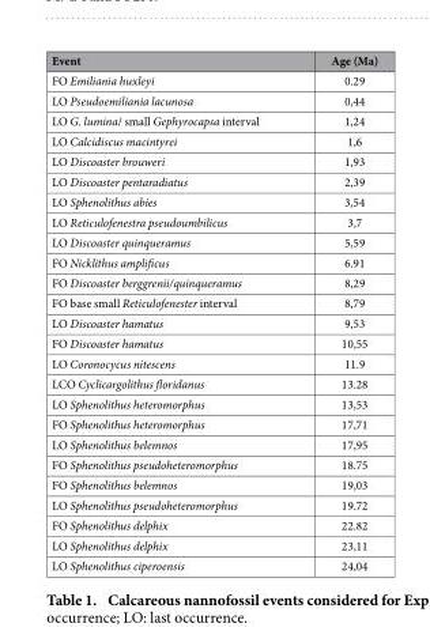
<table><thead><tr><td>Event</td><td>Age (Ma)</td></tr></thead><tbody><tr><td>FO Emiliania huxleyi</td><td>0.29</td></tr><tr><td>LO Pseudoemiliania lacunosa</td><td>0,44</td></tr><tr><td>LO G. lumina/ small Gephyrocapsa interval</td><td>1,24</td></tr><tr><td>LO Calcidiscus macintyrei</td><td>1,6</td></tr><tr><td>LO Discoaster brouweri</td><td>1,93</td></tr><tr><td>LO Discoaster pentaradiatus</td><td>2,39</td></tr><tr><td>LO Sphenolithus abies</td><td>3,54</td></tr><tr><td>LO Reticulofenestra pseudoumbilicus</td><td>3,7</td></tr><tr><td>LO Discoaster quinqueramus</td><td>5,59</td></tr><tr><td>FO Nicklithus amplificus</td><td>6.91</td></tr><tr><td>FO Discoaster berggrenii/quinqueramus</td><td>8,29</td></tr><tr><td>FO base small Reticulofenester interval</td><td>8,79</td></tr><tr><td>LO Discoaster hamatus</td><td>9,53</td></tr><tr><td>FO Discoaster hamatus</td><td>10,55</td></tr><tr><td>LO Coronocycus nitescens</td><td>11.9</td></tr><tr><td>LCO Cyclicargolithus floridanus</td><td>13.28</td></tr><tr><td>LO Sphenolithus heteromorphus</td><td>13,53</td></tr><tr><td>FO Sphenolithus heteromorphus</td><td>17,71</td></tr><tr><td>LO Sphenolithus belemnos</td><td>17,95</td></tr><tr><td>FO Sphenolithus pseudoheteromorphus</td><td>18.75</td></tr><tr><td>FO Sphenolithus belemnos</td><td>19,03</td></tr><tr><td>LO Sphenolithus pseudoheteromorphus</td><td>19.72</td></tr><tr><td>FO Sphenolithus delphix</td><td>22.82</td></tr><tr><td>LO Sphenolithus delphix</td><td>23,11</td></tr><tr><td>LO Sphenolithus ciperoensis</td><td>24,04</td></tr></tbody></table>